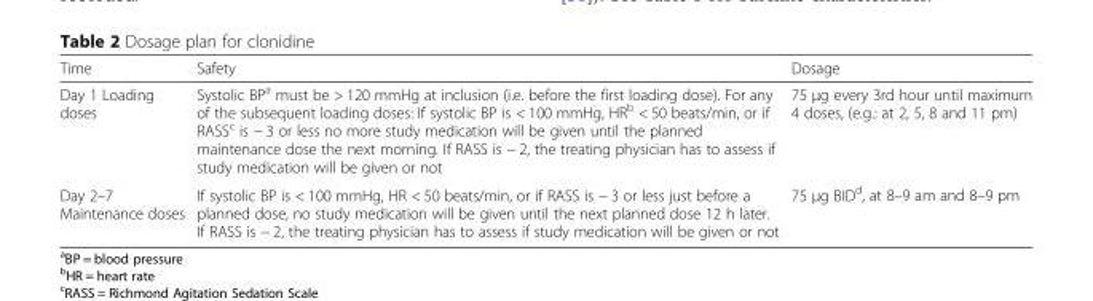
<table><thead><tr><td>Time</td><td>Safety</td><td>Dosage</td></tr></thead><tbody><tr><td>Day 1 Loading doses</td><td>Systolic BP<sup>a</sup> must be &gt; 120 mmHg at inclusion (i.e. before the first loading dose). For any of the subsequent loading doses: If systolic BP is &lt; 100 mmHg, HR<sup>b</sup> &lt; 50 beats/min, or if RASS<sup>c</sup> is − 3 or less no more study medication will be given until the planned maintenance dose the next morning. If RASS is − 2, the treating physician has to assess if study medication will be given or not</td><td>75 μg every 3rd hour until maximum 4 doses, (e.g.: at 2, 5, 8 and 11 pm)</td></tr><tr><td>Day 2–7 Maintenance doses</td><td>If systolic BP is &lt; 100 mmHg, HR &lt; 50 beats/min, or if RASS is − 3 or less just before a planned dose, no study medication will be given until the next planned dose 12 h later. If RASS is − 2, the treating physician has to assess if study medication will be given or not</td><td>75 μg BID<sup>d</sup>, at 8–9 am and 8–9 pm</td></tr></tbody></table>